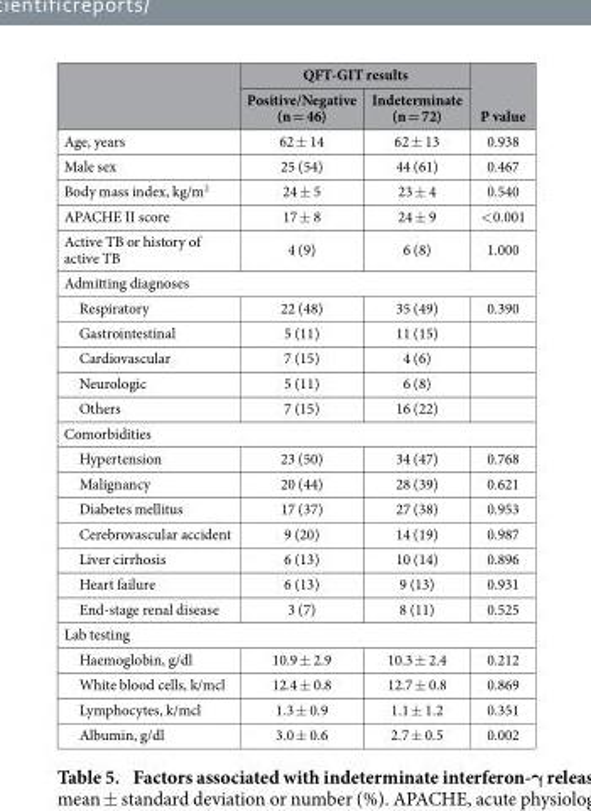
<table><thead><tr><td rowspan="2"></td><td colspan="2">QFT-GIT results</td><td rowspan="2">P value</td></tr><tr><td>Positive/Negative (n = 46)</td><td>Indeterminate (n = 72)</td></tr></thead><tbody><tr><td>Age, years</td><td>62 ± 14</td><td>62 ± 13</td><td>0.938</td></tr><tr><td>Male sex</td><td>25 (54)</td><td>44 (61)</td><td>0.467</td></tr><tr><td>Body mass index, kg/m<sup>2</sup></td><td>24 ± 5</td><td>23 ± 4</td><td>0.540</td></tr><tr><td>APACHE II score</td><td>17 ± 8</td><td>24 ± 9</td><td>&lt; 0.001</td></tr><tr><td>Active TB or history of active TB</td><td>4 (9)</td><td>6 (8)</td><td>1.000</td></tr><tr><td colspan="4">Admitting diagnoses</td></tr><tr><td>Respiratory</td><td>22 (48)</td><td>35 (49)</td><td>0.390</td></tr><tr><td>Gastrointestinal</td><td>5 (11)</td><td>11 (15)</td><td></td></tr><tr><td>Cardiovascular</td><td>7 (15)</td><td>4 (6)</td><td></td></tr><tr><td>Neurologic</td><td>5 (11)</td><td>6 (8)</td><td></td></tr><tr><td>Others</td><td>7 (15)</td><td>16 (22)</td><td></td></tr><tr><td colspan="4">Comorbidities</td></tr><tr><td>Hypertension</td><td>23 (50)</td><td>34 (47)</td><td>0.768</td></tr><tr><td>Malignancy</td><td>20 (44)</td><td>28 (39)</td><td>0.621</td></tr><tr><td>Diabetes mellitus</td><td>17 (37)</td><td>27 (38)</td><td>0.953</td></tr><tr><td>Cerebrovascular accident</td><td>9 (20)</td><td>14 (19)</td><td>0.987</td></tr><tr><td>Liver cirrhosis</td><td>6 (13)</td><td>10 (14)</td><td>0.896</td></tr><tr><td>Heart failure</td><td>6 (13)</td><td>9 (13)</td><td>0.931</td></tr><tr><td>End-stage renal disease</td><td>3 (7)</td><td>8 (11)</td><td>0.525</td></tr><tr><td colspan="4">Lab testing</td></tr><tr><td>Haemoglobin, g/dl</td><td>10.9 ± 2.9</td><td>10.3 ± 2.4</td><td>0.212</td></tr><tr><td>White blood cells, k/mcl</td><td>12.4 ± 0.8</td><td>12.7 ± 0.8</td><td>0.869</td></tr><tr><td>Lymphocytes, k/mcl</td><td>1.3 ± 0.9</td><td>1.1 ± 1.2</td><td>0.351</td></tr><tr><td>Albumin, g/dl</td><td>3.0 ± 0.6</td><td>2.7 ± 0.5</td><td>0.002</td></tr></tbody></table>